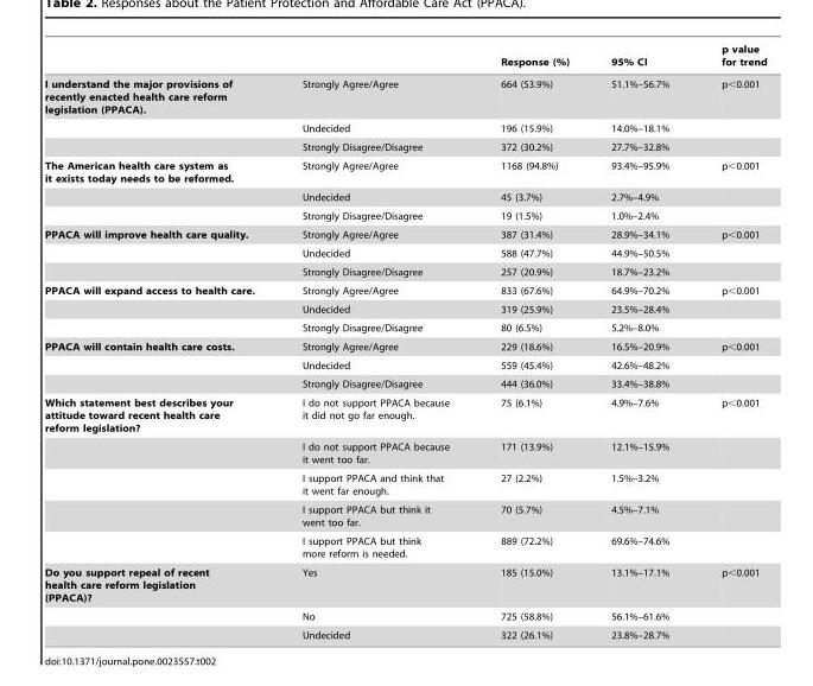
<table><thead><tr><td></td><td></td><td>Response (%)</td><td>95% CI</td><td>p value for trend</td></tr></thead><tbody><tr><td rowspan="3">I understand the major provisions of recently enacted health care reform legislation (PPACA).</td><td>Strongly Agree/Agree</td><td>664 (53.9%)</td><td>51.1%–56.7%</td><td>p&lt;0.001</td></tr><tr><td>Undecided</td><td>196 (15.9%)</td><td>14.0%–18.1%</td><td></td></tr><tr><td>Strongly Disagree/Disagree</td><td>372 (30.2%)</td><td>27.7%–32.8%</td><td></td></tr><tr><td rowspan="3">The American health care system as it exists today needs to be reformed.</td><td>Strongly Agree/Agree</td><td>1168 (94.8%)</td><td>93.4%–95.9%</td><td>p&lt;0.001</td></tr><tr><td>Undecided</td><td>45 (3.7%)</td><td>2.7%–4.9%</td><td></td></tr><tr><td>Strongly Disagree/Disagree</td><td>19 (1.5%)</td><td>1.0%–2.4%</td><td></td></tr><tr><td rowspan="3">PPACA will improve health care quality.</td><td>Strongly Agree/Agree</td><td>387 (31.4%)</td><td>28.9%–34.1%</td><td>p&lt;0.001</td></tr><tr><td>Undecided</td><td>588 (47.7%)</td><td>44.9%–50.5%</td><td></td></tr><tr><td>Strongly Disagree/Disagree</td><td>257 (20.9%)</td><td>18.7%–23.2%</td><td></td></tr><tr><td rowspan="3">PPACA will expand access to health care.</td><td>Strongly Agree/Agree</td><td>833 (67.6%)</td><td>64.9%–70.2%</td><td>p&lt;0.001</td></tr><tr><td>Undecided</td><td>319 (25.9%)</td><td>23.5%–28.4%</td><td></td></tr><tr><td>Strongly Disagree/Disagree</td><td>80 (6.5%)</td><td>5.2%–8.0%</td><td></td></tr><tr><td rowspan="3">PPACA will contain health care costs.</td><td>Strongly Agree/Agree</td><td>229 (18.6%)</td><td>16.5%–20.9%</td><td>p&lt;0.001</td></tr><tr><td>Undecided</td><td>559 (45.4%)</td><td>42.6%–48.2%</td><td></td></tr><tr><td>Strongly Disagree/Disagree</td><td>444 (36.0%)</td><td>33.4%–38.8%</td><td></td></tr><tr><td rowspan="5">Which statement best describes your attitude toward recent health care reform legislation?</td><td>I do not support PPACA because it did not go far enough.</td><td>75 (6.1%)</td><td>4.9%–7.6%</td><td>p&lt;0.001</td></tr><tr><td>I do not support PPACA because it went too far.</td><td>171 (13.9%)</td><td>12.1%–15.9%</td><td></td></tr><tr><td>I support PPACA and think that it went far enough.</td><td>27 (2.2%)</td><td>1.5%–3.2%</td><td></td></tr><tr><td>I support PPACA but think it went too far.</td><td>70 (5.7%)</td><td>4.5%–7.1%</td><td></td></tr><tr><td>I support PPACA but think more reform is needed.</td><td>889 (72.2%)</td><td>69.6%–74.6%</td><td></td></tr><tr><td rowspan="3">Do you support repeal of recent health care reform legislation (PPACA)?</td><td>Yes</td><td>185 (15.0%)</td><td>13.1%–17.1%</td><td>p&lt;0.001</td></tr><tr><td>No</td><td>725 (58.8%)</td><td>56.1%–61.6%</td><td></td></tr><tr><td>Undecided</td><td>322 (26.1%)</td><td>23.8%–28.7%</td><td></td></tr></tbody></table>